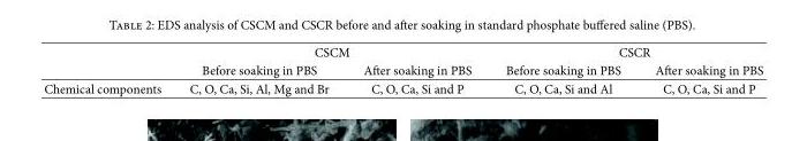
<table><thead><tr><td rowspan="2"></td><td colspan="2">CSCM</td><td colspan="2">CSCR</td></tr><tr><td>Before soaking in PBS</td><td>After soaking in PBS</td><td>Before soaking in PBS</td><td>After soaking in PBS</td></tr></thead><tbody><tr><td>Chemical components</td><td>C, O, Ca, Si, Al, Mg and Br</td><td>C, O, Ca, Si and P</td><td>C, O, Ca, Si and Al</td><td>C, O, Ca, Si and P</td></tr></tbody></table>